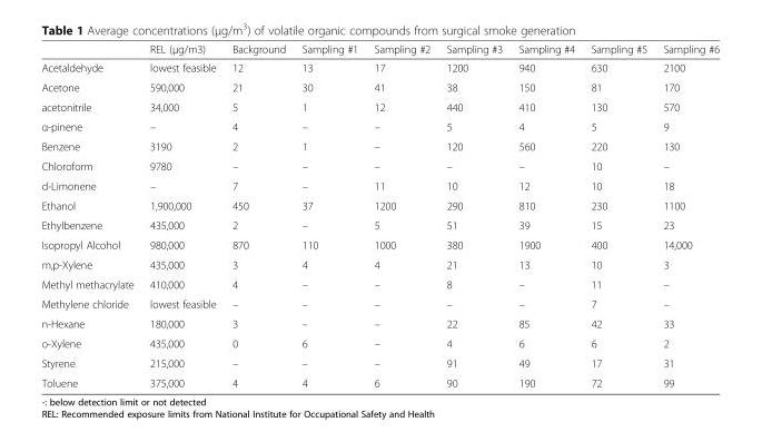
<table><thead><tr><td></td><td>REL (μg/m3)</td><td>Background</td><td>Sampling #1</td><td>Sampling #2</td><td>Sampling #3</td><td>Sampling #4</td><td>Sampling #5</td><td>Sampling #6</td></tr></thead><tbody><tr><td>Acetaldehyde</td><td>lowest feasible</td><td>12</td><td>13</td><td>17</td><td>1200</td><td>940</td><td>630</td><td>2100</td></tr><tr><td>Acetone</td><td>590,000</td><td>21</td><td>30</td><td>41</td><td>38</td><td>150</td><td>81</td><td>170</td></tr><tr><td>acetonitrile</td><td>34,000</td><td>5</td><td>1</td><td>12</td><td>440</td><td>410</td><td>130</td><td>570</td></tr><tr><td>α-pinene</td><td>–</td><td>4</td><td>–</td><td>–</td><td>5</td><td>4</td><td>5</td><td>9</td></tr><tr><td>Benzene</td><td>3190</td><td>2</td><td>1</td><td>–</td><td>120</td><td>560</td><td>220</td><td>130</td></tr><tr><td>Chloroform</td><td>9780</td><td>–</td><td>–</td><td>–</td><td>–</td><td>–</td><td>10</td><td>–</td></tr><tr><td>d-Limonene</td><td>–</td><td>7</td><td>–</td><td>11</td><td>10</td><td>12</td><td>10</td><td>18</td></tr><tr><td>Ethanol</td><td>1,900,000</td><td>450</td><td>37</td><td>1200</td><td>290</td><td>810</td><td>230</td><td>1100</td></tr><tr><td>Ethylbenzene</td><td>435,000</td><td>2</td><td>–</td><td>5</td><td>51</td><td>39</td><td>15</td><td>23</td></tr><tr><td>Isopropyl Alcohol</td><td>980,000</td><td>870</td><td>110</td><td>1000</td><td>380</td><td>1900</td><td>400</td><td>14,000</td></tr><tr><td>m,p-Xylene</td><td>435,000</td><td>3</td><td>4</td><td>4</td><td>21</td><td>13</td><td>10</td><td>3</td></tr><tr><td>Methyl methacrylate</td><td>410,000</td><td>4</td><td>–</td><td>–</td><td>8</td><td>–</td><td>11</td><td>–</td></tr><tr><td>Methylene chloride</td><td>lowest feasible</td><td>–</td><td>–</td><td>–</td><td>–</td><td>–</td><td>7</td><td>–</td></tr><tr><td>n-Hexane</td><td>180,000</td><td>3</td><td>–</td><td>–</td><td>22</td><td>85</td><td>42</td><td>33</td></tr><tr><td>o-Xylene</td><td>435,000</td><td>0</td><td>6</td><td>–</td><td>4</td><td>6</td><td>6</td><td>2</td></tr><tr><td>Styrene</td><td>215,000</td><td>–</td><td>–</td><td>–</td><td>91</td><td>49</td><td>17</td><td>31</td></tr><tr><td>Toluene</td><td>375,000</td><td>4</td><td>4</td><td>6</td><td>90</td><td>190</td><td>72</td><td>99</td></tr></tbody></table>